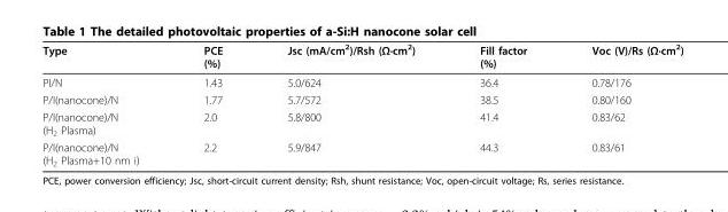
<table><thead><tr><td>Type</td><td>PCE (%)</td><td>Jsc (mA/cm<sup>2</sup>)/Rsh (Ω·cm<sup>2</sup>)</td><td>Fill factor (%)</td><td>Voc (V)/Rs (Ω·cm<sup>2</sup>)</td></tr></thead><tbody><tr><td>PI/N</td><td>1.43</td><td>5.0/624</td><td>36.4</td><td>0.78/176</td></tr><tr><td>P/I(nanocone)/N</td><td>1.77</td><td>5.7/572</td><td>38.5</td><td>0.80/160</td></tr><tr><td>P/I(nanocone)/N (H<sub>2</sub> Plasma)</td><td>2.0</td><td>5.8/800</td><td>41.4</td><td>0.83/62</td></tr><tr><td>P/I(nanocone)/N (H<sub>2</sub> Plasma+10 nm i)</td><td>2.2</td><td>5.9/847</td><td>44.3</td><td>0.83/61</td></tr></tbody></table>